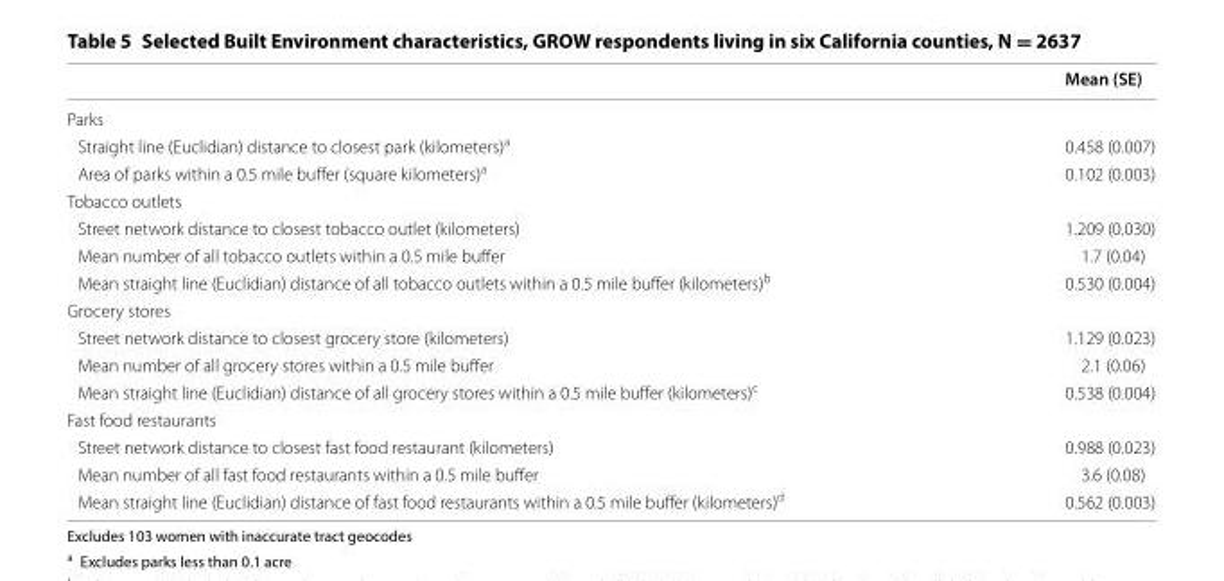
<table><thead><tr><td></td><td>Mean (SE)</td></tr></thead><tbody><tr><td colspan="2">Parks</td></tr><tr><td>Straight line (Euclidian) distance to closest park (kilometers)<sup>a</sup></td><td>0.458 (0.007)</td></tr><tr><td>Area of parks within a 0.5 mile buffer (square kilometers)<sup>a</sup></td><td>0.102 (0.003)</td></tr><tr><td colspan="2">Tobacco outlets</td></tr><tr><td>Street network distance to closest tobacco outlet (kilometers)</td><td>1.209 (0.030)</td></tr><tr><td>Mean number of all tobacco outlets within a 0.5 mile buffer</td><td>1.7 (0.04)</td></tr><tr><td>Mean straight line (Euclidian) distance of all tobacco outlets within a 0.5 mile buffer (kilometers)<sup>b</sup></td><td>0.530 (0.004)</td></tr><tr><td colspan="2">Grocery stores</td></tr><tr><td>Street network distance to closest grocery store (kilometers)</td><td>1.129 (0.023)</td></tr><tr><td>Mean number of all grocery stores within a 0.5 mile buffer</td><td>2.1 (0.06)</td></tr><tr><td>Mean straight line (Euclidian) distance of all grocery stores within a 0.5 mile buffer (kilometers)<sup>c</sup></td><td>0.538 (0.004)</td></tr><tr><td colspan="2">Fast food restaurants</td></tr><tr><td>Street network distance to closest fast food restaurant (kilometers)</td><td>0.988 (0.023)</td></tr><tr><td>Mean number of all fast food restaurants within a 0.5 mile buffer</td><td>3.6 (0.08)</td></tr><tr><td>Mean straight line (Euclidian) distance of fast food restaurants within a 0.5 mile buffer (kilometers)<sup>d</sup></td><td>0.562 (0.003)</td></tr></tbody></table>